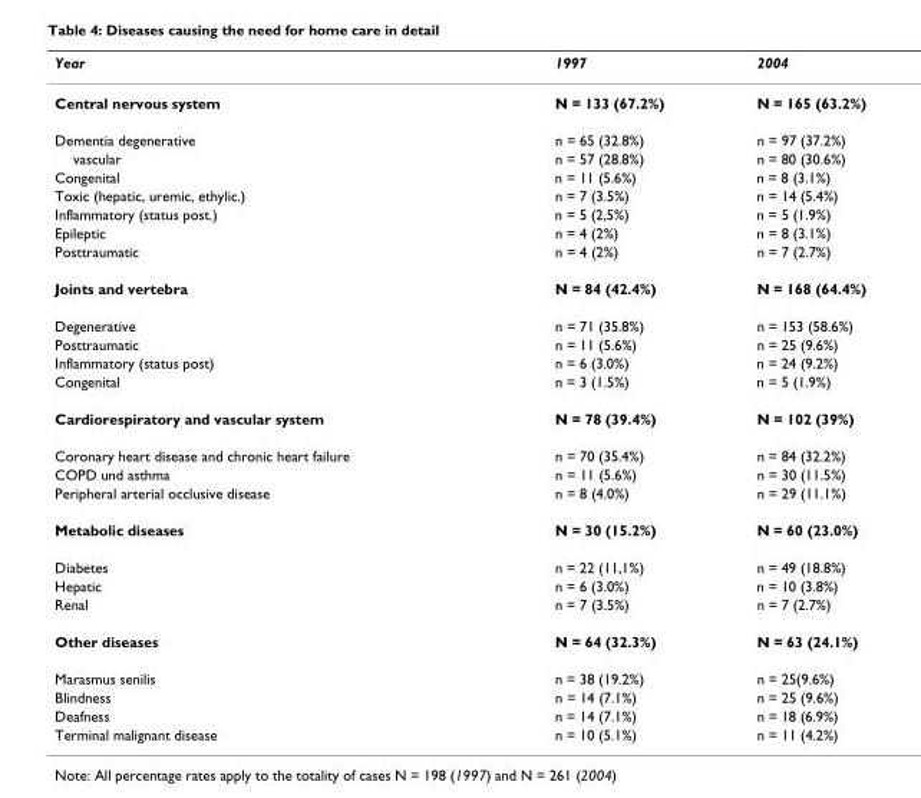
<table><thead><tr><td>Year</td><td>1997</td><td>2004</td></tr></thead><tbody><tr><td>Central nervous system</td><td>N = 133 (67.2%)</td><td>N = 165 (63.2%)</td></tr><tr><td>Dementia degenerative</td><td>n = 65 (32.8%)</td><td>n = 97 (37.2%)</td></tr><tr><td>vascular</td><td>n = 57 (28.8%)</td><td>n = 80 (30.6%)</td></tr><tr><td>Congenital</td><td>n = 11 (5.6%)</td><td>n = 8 (3.1%)</td></tr><tr><td>Toxic (hepatic, uremic, ethylic.)</td><td>n = 7 (3.5%)</td><td>n = 14 (5.4%)</td></tr><tr><td>Inflammatory (status post.)</td><td>n = 5 (2,5%)</td><td>n = 5 (1.9%)</td></tr><tr><td>Epileptic</td><td>n = 4 (2%)</td><td>n = 8 (3.1%)</td></tr><tr><td>Posttraumatic</td><td>n = 4 (2%)</td><td>n = 7 (2.7%)</td></tr><tr><td>Joints and vertebra</td><td>N = 84 (42.4%)</td><td>N = 168 (64.4%)</td></tr><tr><td>Degenerative</td><td>n = 71 (35.8%)</td><td>n = 153 (58.6%)</td></tr><tr><td>Posttraumatic</td><td>n = 11 (5.6%)</td><td>n = 25 (9.6%)</td></tr><tr><td>Inflammatory (status post)</td><td>n = 6 (3.0%)</td><td>n = 24 (9.2%)</td></tr><tr><td>Congenital</td><td>n = 3 (1.5%)</td><td>n = 5 (1.9%)</td></tr><tr><td>Cardiorespiratory and vascular system</td><td>N = 78 (39.4%)</td><td>N = 102 (39%)</td></tr><tr><td>Coronary heart disease and chronic heart failure</td><td>n = 70 (35.4%)</td><td>n = 84 (32.2%)</td></tr><tr><td>COPD und asthma</td><td>n = 11 (5.6%)</td><td>n = 30 (11.5%)</td></tr><tr><td>Peripheral arterial occlusive disease</td><td>n = 8 (4.0%)</td><td>n = 29 (11.1%)</td></tr><tr><td>Metabolic diseases</td><td>N = 30 (15.2%)</td><td>N = 60 (23.0%)</td></tr><tr><td>Diabetes</td><td>n = 22 (11,1%)</td><td>n = 49 (18.8%)</td></tr><tr><td>Hepatic</td><td>n = 6 (3.0%)</td><td>n = 10 (3.8%)</td></tr><tr><td>Renal</td><td>n = 7 (3.5%)</td><td>n = 7 (2.7%)</td></tr><tr><td>Other diseases</td><td>N = 64 (32.3%)</td><td>N = 63 (24.1%)</td></tr><tr><td>Marasmus senilis</td><td>n = 38 (19.2%)</td><td>n = 25(9.6%)</td></tr><tr><td>Blindness</td><td>n = 14 (7.1%)</td><td>n = 25 (9.6%)</td></tr><tr><td>Deafness</td><td>n = 14 (7.1%)</td><td>n = 18 (6.9%)</td></tr><tr><td>Terminal malignant disease</td><td>n = 10 (5.1%)</td><td>n = 11 (4.2%)</td></tr></tbody></table>